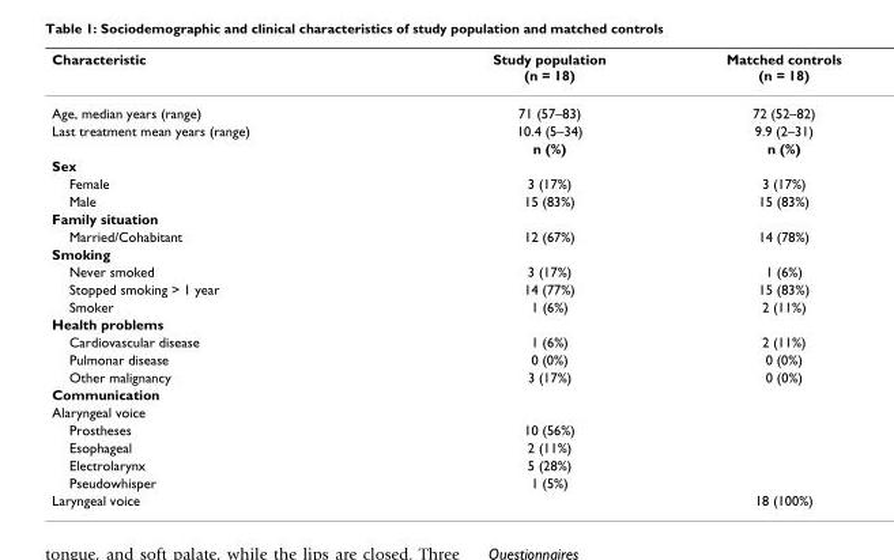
<table><thead><tr><td>Characteristic</td><td>Study population (n = 18)</td><td>Matched controls (n = 18)</td></tr></thead><tbody><tr><td>Age, median years (range)</td><td>71 (57–83)</td><td>72 (52–82)</td></tr><tr><td rowspan="2">Last treatment mean years (range)</td><td>10.4 (5–34)</td><td>9.9 (2–31)</td></tr><tr><td>n (%)</td><td>n (%)</td></tr><tr><td colspan="3">Sex</td></tr><tr><td>Female</td><td>3 (17%)</td><td>3 (17%)</td></tr><tr><td>Male</td><td>15 (83%)</td><td>15 (83%)</td></tr><tr><td colspan="3">Family situation</td></tr><tr><td>Married/Cohabitant</td><td>12 (67%)</td><td>14 (78%)</td></tr><tr><td colspan="3">Smoking</td></tr><tr><td>Never smoked</td><td>3 (17%)</td><td>1 (6%)</td></tr><tr><td>Stopped smoking &gt; 1 year</td><td>14 (77%)</td><td>15 (83%)</td></tr><tr><td>Smoker</td><td>1 (6%)</td><td>2 (11%)</td></tr><tr><td colspan="3">Health problems</td></tr><tr><td>Cardiovascular disease</td><td>1 (6%)</td><td>2 (11%)</td></tr><tr><td>Pulmonar disease</td><td>0 (0%)</td><td>0 (0%)</td></tr><tr><td>Other malignancy</td><td>3 (17%)</td><td>0 (0%)</td></tr><tr><td colspan="3">Communication</td></tr><tr><td colspan="3">Alaryngeal voice</td></tr><tr><td>Prostheses</td><td>10 (56%)</td><td></td></tr><tr><td>Esophageal</td><td>2 (11%)</td><td></td></tr><tr><td>Electrolarynx</td><td>5 (28%)</td><td></td></tr><tr><td>Pseudowhisper</td><td>1 (5%)</td><td></td></tr><tr><td>Laryngeal voice</td><td></td><td>18 (100%)</td></tr></tbody></table>